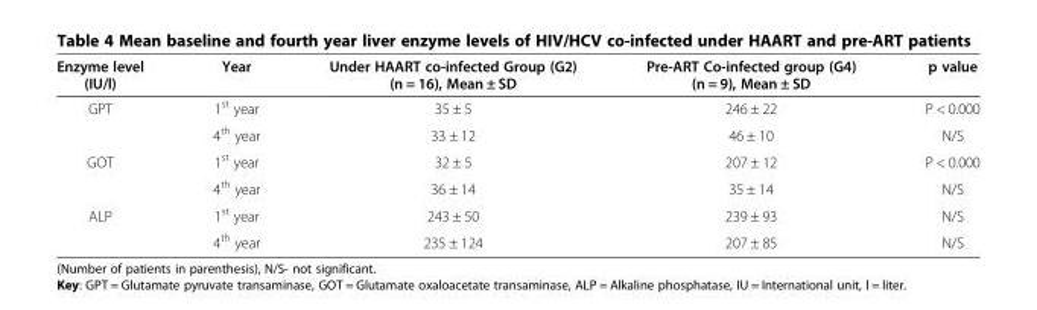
<table><thead><tr><td>Enzyme level (IU/l)</td><td>Year</td><td>Under HAART co-infected Group (G2) (n = 16), Mean ± SD</td><td>Pre-ART Co-infected group (G4) (n = 9), Mean ± SD</td><td>p value</td></tr></thead><tbody><tr><td rowspan="2">GPT</td><td>1<sup>st</sup> year</td><td>35 ± 5</td><td>246 ± 22</td><td>P &lt; 0.000</td></tr><tr><td>4<sup>th</sup> year</td><td>33 ± 12</td><td>46 ± 10</td><td>N/S</td></tr><tr><td rowspan="2">GOT</td><td>1<sup>st</sup> year</td><td>32 ± 5</td><td>207 ± 12</td><td>P &lt; 0.000</td></tr><tr><td>4<sup>th</sup> year</td><td>36 ± 14</td><td>35 ± 14</td><td>N/S</td></tr><tr><td rowspan="2">ALP</td><td>1<sup>st</sup> year</td><td>243 ± 50</td><td>239 ± 93</td><td>N/S</td></tr><tr><td>4<sup>th</sup> year</td><td>235 ± 124</td><td>207 ± 85</td><td>N/S</td></tr></tbody></table>